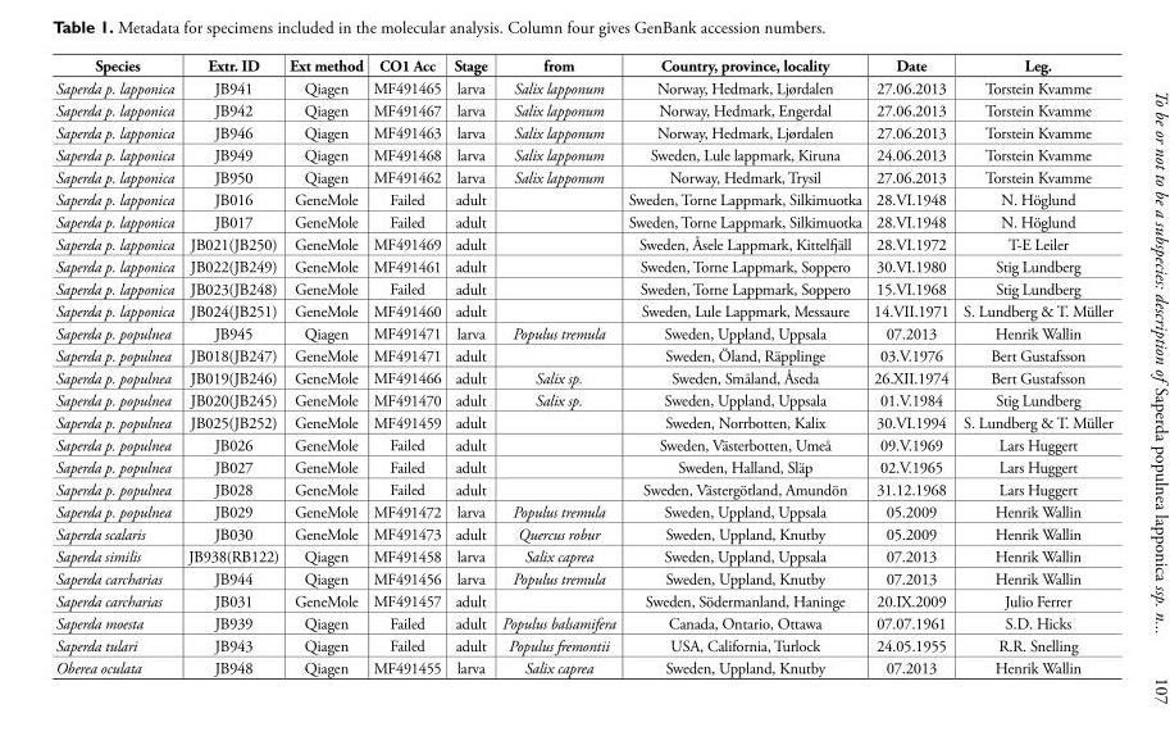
<table><thead><tr><td>Species</td><td>Extr. ID</td><td>Ext method</td><td>CO1 Acc</td><td>Stage</td><td>from</td><td>Country, province, locality</td><td>Date</td><td>Leg.</td></tr></thead><tbody><tr><td>Saperda p. lapponica</td><td>JB941</td><td>Qiagen</td><td>MF491465</td><td>larva</td><td>Salix lapponum</td><td>Norway, Hedmark, Ljørdalen</td><td>27.06.2013</td><td>Torstein Kvamme</td></tr><tr><td>Saperda p. lapponica</td><td>JB942</td><td>Qiagen</td><td>MF491467</td><td>larva</td><td>Salix lapponum</td><td>Norway, Hedmark, Engerdal</td><td>27.06.2013</td><td>Torstein Kvamme</td></tr><tr><td>Saperda p. lapponica</td><td>JB946</td><td>Qiagen</td><td>MF491463</td><td>larva</td><td>Salix lapponum</td><td>Norway, Hedmark, Ljørdalen</td><td>27.06.2013</td><td>Torstein Kvamme</td></tr><tr><td>Saperda p. lapponica</td><td>JB949</td><td>Qiagen</td><td>MF491468</td><td>larva</td><td>Salix lapponum</td><td>Sweden, Lule lappmark, Kiruna</td><td>24.06.2013</td><td>Torstein Kvamme</td></tr><tr><td>Saperda p. lapponica</td><td>JB950</td><td>Qiagen</td><td>MF491462</td><td>larva</td><td>Salix lapponum</td><td>Norway, Hedmark, Trysil</td><td>27.06.2013</td><td>Torstein Kvamme</td></tr><tr><td>Saperda p. lapponica</td><td>JB016</td><td>GeneMole</td><td>Failed</td><td>adult</td><td></td><td>Sweden, Torne Lappmark, Silkimuotka</td><td>28.VI.1948</td><td>N. Höglund</td></tr><tr><td>Saperda p. lapponica</td><td>JB017</td><td>GeneMole</td><td>Failed</td><td>adult</td><td></td><td>Sweden, Torne Lappmark, Silkimuotka</td><td>28.VI.1948</td><td>N. Höglund</td></tr><tr><td>Saperda p. lapponica</td><td>JB021(JB250)</td><td>GeneMole</td><td>MF491469</td><td>adult</td><td></td><td>Sweden, Åsele Lappmark, Kittelfjäll</td><td>28.VI.1972</td><td>T-E Leiler</td></tr><tr><td>Saperda p. lapponica</td><td>JB022(JB249)</td><td>GeneMole</td><td>MF491461</td><td>adult</td><td></td><td>Sweden, Torne Lappmark, Soppero</td><td>30.VI.1980</td><td>Stig Lundberg</td></tr><tr><td>Saperda p. lapponica</td><td>JB023(JB248)</td><td>GeneMole</td><td>Failed</td><td>adult</td><td></td><td>Sweden, Torne Lappmark, Soppero</td><td>15.VI.1968</td><td>Stig Lundberg</td></tr><tr><td>Saperda p. lapponica</td><td>JB024(JB251)</td><td>GeneMole</td><td>MF491460</td><td>adult</td><td></td><td>Sweden, Lule Lappmark, Messaure</td><td>14.VII.1971</td><td>S. Lundberg &amp; T. Müller</td></tr><tr><td>Saperda p. populnea</td><td>JB945</td><td>Qiagen</td><td>MF491471</td><td>larva</td><td>Populus tremula</td><td>Sweden, Uppland, Uppsala</td><td>07.2013</td><td>Henrik Wallin</td></tr><tr><td>Saperda p. populnea</td><td>JB018(JB247)</td><td>GeneMole</td><td>MF491471</td><td>adult</td><td></td><td>Sweden, Öland, Räpplinge</td><td>03.V.1976</td><td>Bert Gustafsson</td></tr><tr><td>Saperda p. populnea</td><td>JB019(JB246)</td><td>GeneMole</td><td>MF491466</td><td>adult</td><td>Salix sp.</td><td>Sweden, Småland, Åseda</td><td>26.XII.1974</td><td>Bert Gustafsson</td></tr><tr><td>Saperda p. populnea</td><td>JB020(JB245)</td><td>GeneMole</td><td>MF491470</td><td>adult</td><td>Salix sp.</td><td>Sweden, Uppland, Uppsala</td><td>01.V.1984</td><td>Stig Lundberg</td></tr><tr><td>Saperda p. populnea</td><td>JB025(JB252)</td><td>GeneMole</td><td>MF491459</td><td>adult</td><td></td><td>Sweden, Norrbotten, Kalix</td><td>30.VI.1994</td><td>S. Lundberg &amp; T. Müller</td></tr><tr><td>Saperda p. populnea</td><td>JB026</td><td>GeneMole</td><td>Failed</td><td>adult</td><td></td><td>Sweden, Västerbotten, Umeå</td><td>09.V.1969</td><td>Lars Huggert</td></tr><tr><td>Saperda p. populnea</td><td>JB027</td><td>GeneMole</td><td>Failed</td><td>adult</td><td></td><td>Sweden, Halland, Släp</td><td>02.V.1965</td><td>Lars Huggert</td></tr><tr><td>Saperda p. populnea</td><td>JB028</td><td>GeneMole</td><td>Failed</td><td>adult</td><td></td><td>Sweden, Västergötland, Amundön</td><td>31.12.1968</td><td>Lars Huggert</td></tr><tr><td>Saperda p. populnea</td><td>JB029</td><td>GeneMole</td><td>MF491472</td><td>larva</td><td>Populus tremula</td><td>Sweden, Uppland, Uppsala</td><td>05.2009</td><td>Henrik Wallin</td></tr><tr><td>Saperda scalaris</td><td>JB030</td><td>GeneMole</td><td>MF491473</td><td>adult</td><td>Quercus robur</td><td>Sweden, Uppland, Knutby</td><td>05.2009</td><td>Henrik Wallin</td></tr><tr><td>Saperda similis</td><td>JB938(RB122)</td><td>Qiagen</td><td>MF491458</td><td>larva</td><td>Salix caprea</td><td>Sweden, Uppland, Uppsala</td><td>07.2013</td><td>Henrik Wallin</td></tr><tr><td>Saperda carcharias</td><td>JB944</td><td>Qiagen</td><td>MF491456</td><td>larva</td><td>Populus tremula</td><td>Sweden, Uppland, Knutby</td><td>07.2013</td><td>Henrik Wallin</td></tr><tr><td>Saperda carcharias</td><td>JB031</td><td>GeneMole</td><td>MF491457</td><td>adult</td><td></td><td>Sweden, Södermanland, Haninge</td><td>20.IX.2009</td><td>Julio Ferrer</td></tr><tr><td>Saperda moesta</td><td>JB939</td><td>Qiagen</td><td>Failed</td><td>adult</td><td>Populus balsamifera</td><td>Canada, Ontario, Ottawa</td><td>07.07.1961</td><td>S.D. Hicks</td></tr><tr><td>Saperda tulari</td><td>JB943</td><td>Qiagen</td><td>Failed</td><td>adult</td><td>Populus fremontii</td><td>USA, California, Turlock</td><td>24.05.1955</td><td>R.R. Snelling</td></tr><tr><td>Oberea oculata</td><td>JB948</td><td>Qiagen</td><td>MF491455</td><td>larva</td><td>Salix caprea</td><td>Sweden, Uppland, Knutby</td><td>07.2013</td><td>Henrik Wallin</td></tr></tbody></table>